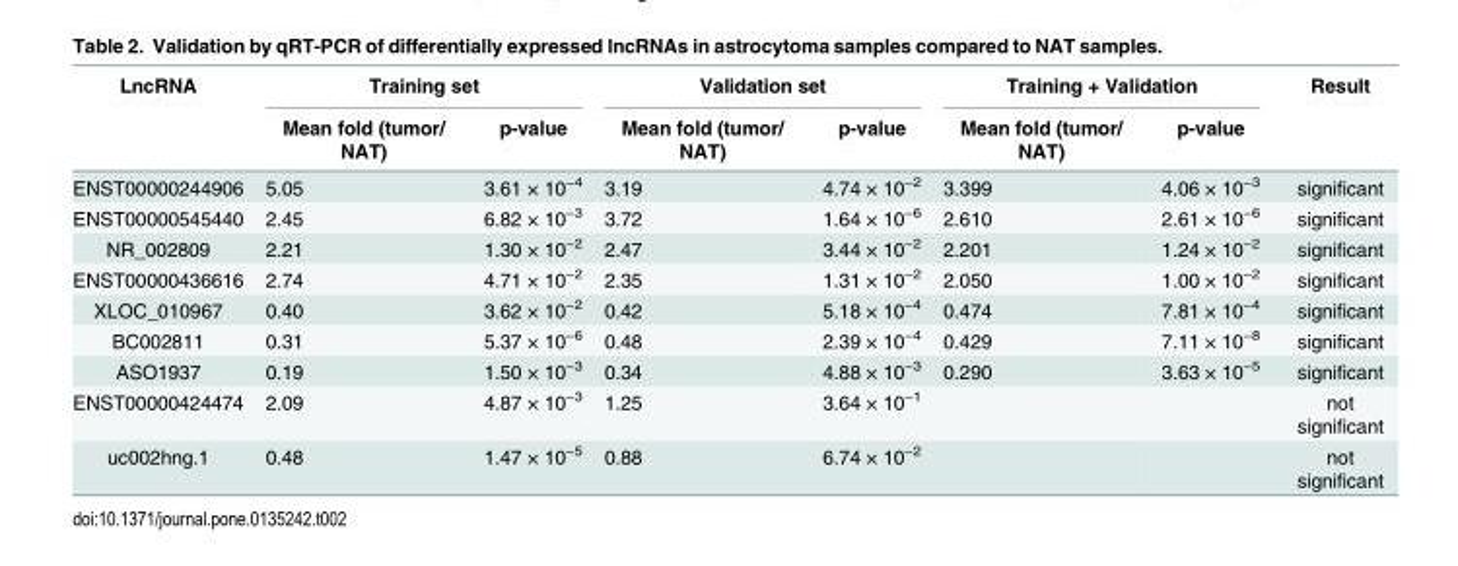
<table><thead><tr><td rowspan="2">LncRNA</td><td colspan="2">Training set</td><td colspan="2">Validation set</td><td colspan="2">Training + Validation</td><td rowspan="2">Result</td></tr><tr><td>Mean fold (tumor/ NAT)</td><td>p-value</td><td>Mean fold (tumor/ NAT)</td><td>p-value</td><td>Mean fold (tumor/ NAT)</td><td>p-value</td></tr></thead><tbody><tr><td>ENST00000244906</td><td>5.05</td><td>3.61 × 10<sup>−4</sup></td><td>3.19</td><td>4.74 × 10<sup>−2</sup></td><td>3.399</td><td>4.06 × 10<sup>−3</sup></td><td>significant</td></tr><tr><td>ENST00000545440</td><td>2.45</td><td>6.82 × 10<sup>−3</sup></td><td>3.72</td><td>1.64 × 10<sup>−6</sup></td><td>2.610</td><td>2.61 × 10<sup>−6</sup></td><td>significant</td></tr><tr><td>NR_002809</td><td>2.21</td><td>1.30 × 10<sup>−2</sup></td><td>2.47</td><td>3.44 × 10<sup>−2</sup></td><td>2.201</td><td>1.24 × 10<sup>−2</sup></td><td>significant</td></tr><tr><td>ENST00000436616</td><td>2.74</td><td>4.71 × 10<sup>−2</sup></td><td>2.35</td><td>1.31 × 10<sup>−2</sup></td><td>2.050</td><td>1.00 × 10<sup>−2</sup></td><td>significant</td></tr><tr><td>XLOC_010967</td><td>0.40</td><td>3.62 × 10<sup>−2</sup></td><td>0.42</td><td>5.18 × 10<sup>−4</sup></td><td>0.474</td><td>7.81 × 10<sup>−4</sup></td><td>significant</td></tr><tr><td>BC002811</td><td>0.31</td><td>5.37 × 10<sup>−6</sup></td><td>0.48</td><td>2.39 × 10<sup>−4</sup></td><td>0.429</td><td>7.11 × 10<sup>−8</sup></td><td>significant</td></tr><tr><td>ASO1937</td><td>0.19</td><td>1.50 × 10<sup>−3</sup></td><td>0.34</td><td>4.88 × 10<sup>−3</sup></td><td>0.290</td><td>3.63 × 10<sup>−5</sup></td><td>significant</td></tr><tr><td>ENST00000424474</td><td>2.09</td><td>4.87 × 10<sup>−3</sup></td><td>1.25</td><td>3.64 × 10<sup>−1</sup></td><td></td><td></td><td>not significant</td></tr><tr><td>uc002hng.1</td><td>0.48</td><td>1.47 × 10<sup>−5</sup></td><td>0.88</td><td>6.74 × 10<sup>−2</sup></td><td></td><td></td><td>not significant</td></tr></tbody></table>